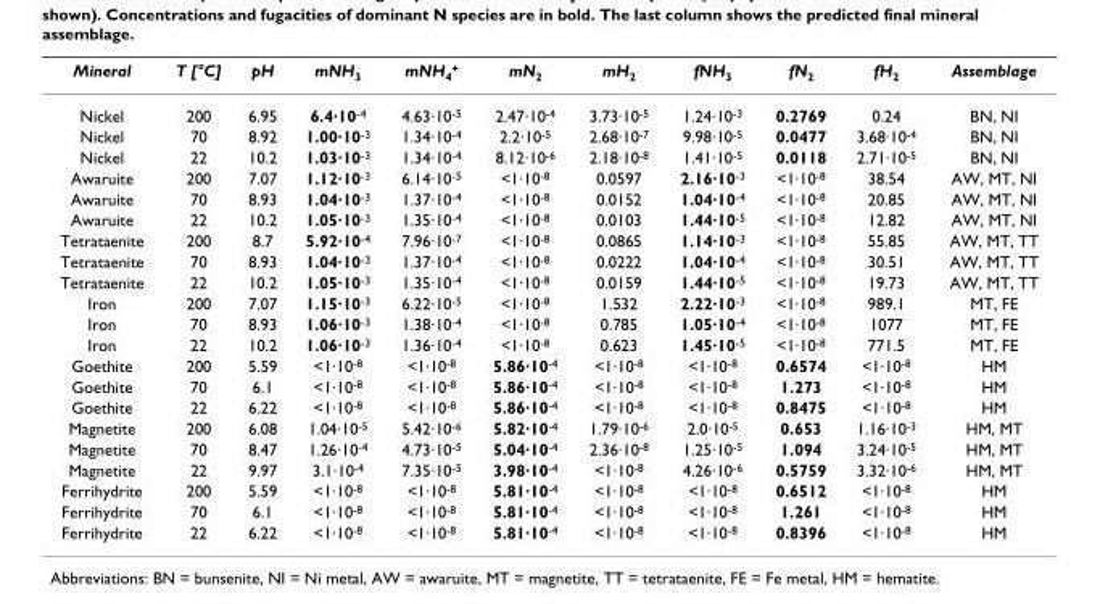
<table><thead><tr><td>Mineral</td><td>T [°C]</td><td>pH</td><td>mNH<sub>3</sub></td><td>mNH<sub>4</sub><sup>+</sup></td><td>mN<sub>2</sub></td><td>mH<sub>2</sub></td><td>fNH<sub>3</sub></td><td>fN<sub>2</sub></td><td>fH<sub>2</sub></td><td>Assemblage</td></tr></thead><tbody><tr><td>Nickel</td><td>200</td><td>6.95</td><td>6.4·10<sup>-4</sup></td><td>4.63·10<sup>-5</sup></td><td>2.47·10<sup>-4</sup></td><td>3.73·10<sup>-5</sup></td><td>1.24·10<sup>-3</sup></td><td>0.2769</td><td>0.24</td><td>BN, NI</td></tr><tr><td>Nickel</td><td>70</td><td>8.92</td><td>1.00·10<sup>-3</sup></td><td>1.34·10<sup>-4</sup></td><td>2.2·10<sup>-5</sup></td><td>2.68·10<sup>-7</sup></td><td>9.98·10<sup>-5</sup></td><td>0.0477</td><td>3.68·10<sup>-4</sup></td><td>BN, NI</td></tr><tr><td>Nickel</td><td>22</td><td>10.2</td><td>1.03·10<sup>-3</sup></td><td>1.34·10<sup>-4</sup></td><td>8.12·10<sup>-6</sup></td><td>2.18·10<sup>-8</sup></td><td>1.41·10<sup>-5</sup></td><td>0.0118</td><td>2.71·10<sup>-5</sup></td><td>BN, NI</td></tr><tr><td>Awaruite</td><td>200</td><td>7.07</td><td>1.12·10<sup>-3</sup></td><td>6.14·10<sup>-5</sup></td><td>&lt;1·10<sup>-8</sup></td><td>0.0597</td><td>2.16·10<sup>-3</sup></td><td>&lt;1·10<sup>-8</sup></td><td>38.54</td><td>AW, MT, NI</td></tr><tr><td>Awaruite</td><td>70</td><td>8.93</td><td>1.04·10<sup>-3</sup></td><td>1.37·10<sup>-4</sup></td><td>&lt;1·10<sup>-8</sup></td><td>0.0152</td><td>1.04·10<sup>-4</sup></td><td>&lt;1·10<sup>-8</sup></td><td>20.85</td><td>AW, MT, NI</td></tr><tr><td>Awaruite</td><td>22</td><td>10.2</td><td>1.05·10<sup>-3</sup></td><td>1.35·10<sup>-4</sup></td><td>&lt;1·10<sup>-8</sup></td><td>0.0103</td><td>1.44·10<sup>-5</sup></td><td>&lt;1·10<sup>-8</sup></td><td>12.82</td><td>AW, MT, NI</td></tr><tr><td>Tetrataenite</td><td>200</td><td>8.7</td><td>5.92·10<sup>-4</sup></td><td>7.96·10<sup>-7</sup></td><td>&lt;1·10<sup>-8</sup></td><td>0.0865</td><td>1.14·10<sup>-3</sup></td><td>&lt;1·10<sup>-8</sup></td><td>55.85</td><td>AW, MT, TT</td></tr><tr><td>Tetrataenite</td><td>70</td><td>8.93</td><td>1.04·10<sup>-3</sup></td><td>1.37·10<sup>-4</sup></td><td>&lt;1·10<sup>-8</sup></td><td>0.0222</td><td>1.04·10<sup>-4</sup></td><td>&lt;1·10<sup>-8</sup></td><td>30.51</td><td>AW, MT, TT</td></tr><tr><td>Tetrataenite</td><td>22</td><td>10.2</td><td>1.05·10<sup>-3</sup></td><td>1.35·10<sup>-4</sup></td><td>&lt;1·10<sup>-8</sup></td><td>0.0159</td><td>1.44·10<sup>-5</sup></td><td>&lt;1·10<sup>-8</sup></td><td>19.73</td><td>AW, MT, TT</td></tr><tr><td>Iron</td><td>200</td><td>7.07</td><td>1.15·10<sup>-3</sup></td><td>6.22·10<sup>-5</sup></td><td>&lt;1·10<sup>-8</sup></td><td>1.532</td><td>2.22·10<sup>-3</sup></td><td>&lt;1·10<sup>-8</sup></td><td>989.1</td><td>MT, FE</td></tr><tr><td>Iron</td><td>70</td><td>8.93</td><td>1.06·10<sup>-3</sup></td><td>1.38·10<sup>-4</sup></td><td>&lt;1·10<sup>-8</sup></td><td>0.785</td><td>1.05·10<sup>-4</sup></td><td>&lt;1·10<sup>-8</sup></td><td>1077</td><td>MT, FE</td></tr><tr><td>Iron</td><td>22</td><td>10.2</td><td>1.06·10<sup>-3</sup></td><td>1.36·10<sup>-4</sup></td><td>&lt;1·10<sup>-8</sup></td><td>0.623</td><td>1.45·10<sup>-5</sup></td><td>&lt;1·10<sup>-8</sup></td><td>771.5</td><td>MT, FE</td></tr><tr><td>Goethite</td><td>200</td><td>5.59</td><td>&lt;1·10<sup>-8</sup></td><td>&lt;1·10<sup>-8</sup></td><td>5.86·10<sup>-4</sup></td><td>&lt;1·10<sup>-8</sup></td><td>&lt;1·10<sup>-8</sup></td><td>0.6574</td><td>&lt;1·10<sup>-8</sup></td><td>HM</td></tr><tr><td>Goethite</td><td>70</td><td>6.1</td><td>&lt;1·10<sup>-8</sup></td><td>&lt;1·10<sup>-8</sup></td><td>5.86·10<sup>-4</sup></td><td>&lt;1·10<sup>-8</sup></td><td>&lt;1·10<sup>-8</sup></td><td>1.273</td><td>&lt;1·10<sup>-8</sup></td><td>HM</td></tr><tr><td>Goethite</td><td>22</td><td>6.22</td><td>&lt;1·10<sup>-8</sup></td><td>&lt;1·10<sup>-8</sup></td><td>5.86·10<sup>-4</sup></td><td>&lt;1·10<sup>-8</sup></td><td>&lt;1·10<sup>-8</sup></td><td>0.8475</td><td>&lt;1·10<sup>-8</sup></td><td>HM</td></tr><tr><td>Magnetite</td><td>200</td><td>6.08</td><td>1.04·10<sup>-5</sup></td><td>5.42·10<sup>-6</sup></td><td>5.82·10<sup>-4</sup></td><td>1.79·10<sup>-6</sup></td><td>2.0·10<sup>-5</sup></td><td>0.653</td><td>1.16·10<sup>-3</sup></td><td>HM, MT</td></tr><tr><td>Magnetite</td><td>70</td><td>8.47</td><td>1.26·10<sup>-4</sup></td><td>4.73·10<sup>-5</sup></td><td>5.04·10<sup>-4</sup></td><td>2.36·10<sup>-8</sup></td><td>1.25·10<sup>-5</sup></td><td>1.094</td><td>3.24·10<sup>-5</sup></td><td>HM, MT</td></tr><tr><td>Magnetite</td><td>22</td><td>9.97</td><td>3.1·10<sup>-4</sup></td><td>7.35·10<sup>-5</sup></td><td>3.98·10<sup>-4</sup></td><td>&lt;1·10<sup>-8</sup></td><td>4.26·10<sup>-6</sup></td><td>0.5759</td><td>3.32·10<sup>-6</sup></td><td>HM, MT</td></tr><tr><td>Ferrihydrite</td><td>200</td><td>5.59</td><td>&lt;1·10<sup>-8</sup></td><td>&lt;1·10<sup>-8</sup></td><td>5.81·10<sup>-4</sup></td><td>&lt;1·10<sup>-8</sup></td><td>&lt;1·10<sup>-8</sup></td><td>0.6512</td><td>&lt;1·10<sup>-8</sup></td><td>HM</td></tr><tr><td>Ferrihydrite</td><td>70</td><td>6.1</td><td>&lt;1·10<sup>-8</sup></td><td>&lt;1·10<sup>-8</sup></td><td>5.81·10<sup>-4</sup></td><td>&lt;1·10<sup>-8</sup></td><td>&lt;1·10<sup>-8</sup></td><td>1.261</td><td>&lt;1·10<sup>-8</sup></td><td>HM</td></tr><tr><td>Ferrihydrite</td><td>22</td><td>6.22</td><td>&lt;1·10<sup>-8</sup></td><td>&lt;1·10<sup>-8</sup></td><td>5.81·10<sup>-4</sup></td><td>&lt;1·10<sup>-8</sup></td><td>&lt;1·10<sup>-8</sup></td><td>0.8396</td><td>&lt;1·10<sup>-8</sup></td><td>HM</td></tr></tbody></table>